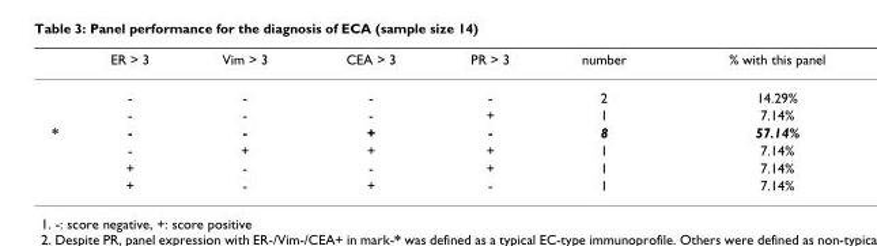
<table><thead><tr><td></td><td>ER &gt; 3</td><td>Vim &gt; 3</td><td>CEA &gt; 3</td><td>PR &gt; 3</td><td>number</td><td>% with this panel</td></tr></thead><tbody><tr><td></td><td>-</td><td>-</td><td>-</td><td>-</td><td>2</td><td>14.29%</td></tr><tr><td></td><td>-</td><td>-</td><td>-</td><td>+</td><td>1</td><td>7.14%</td></tr><tr><td rowspan="4">*</td><td>-</td><td>-</td><td>+</td><td>-</td><td>8</td><td>57.14%</td></tr><tr><td>-</td><td>+</td><td>+</td><td>+</td><td>1</td><td>7.14%</td></tr><tr><td>+</td><td>-</td><td>-</td><td>+</td><td>1</td><td>7.14%</td></tr><tr><td>+</td><td>-</td><td>+</td><td>-</td><td>1</td><td>7.14%</td></tr></tbody></table>